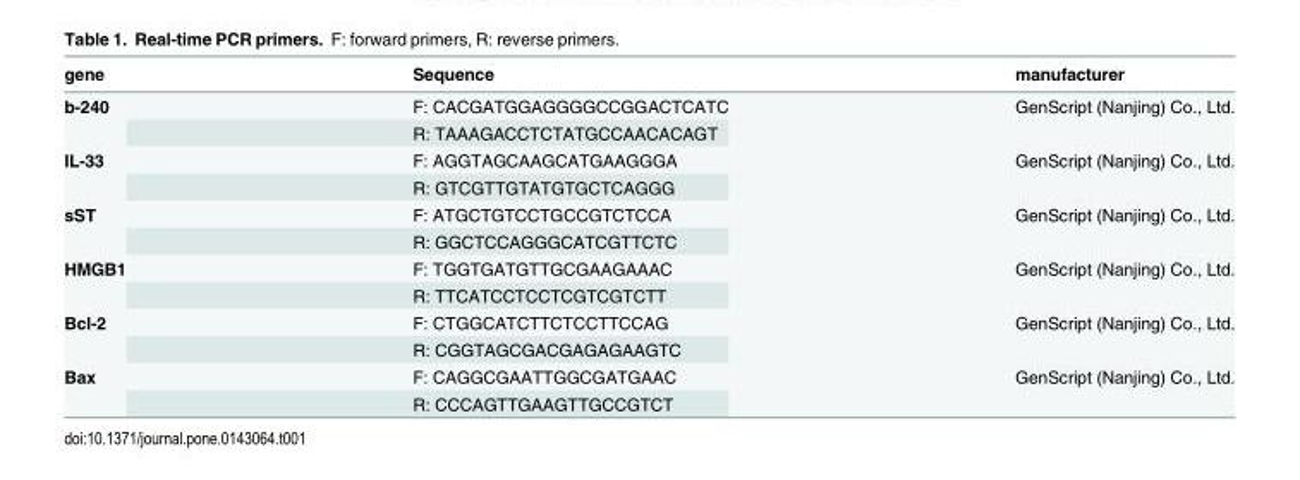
<table><thead><tr><td>gene</td><td>Sequence</td><td>manufacturer</td></tr></thead><tbody><tr><td rowspan="2">b-240</td><td>F: CACGATGGAGGGGCCGGACTCATC</td><td rowspan="2">GenScript (Nanjing) Co., Ltd.</td></tr><tr><td>R: TAAAGACCTCTATGCCAACACAGT</td></tr><tr><td rowspan="2">IL-33</td><td>F: AGGTAGCAAGCATGAAGGGA</td><td rowspan="2">GenScript (Nanjing) Co., Ltd.</td></tr><tr><td>R: GTCGTTGTATGTGCTCAGGG</td></tr><tr><td rowspan="2">sST</td><td>F: ATGCTGTCCTGCCGTCTCCA</td><td rowspan="2">GenScript (Nanjing) Co., Ltd.</td></tr><tr><td>R: GGCTCCAGGGCATCGTTCTC</td></tr><tr><td rowspan="2">HMGB1</td><td>F: TGGTGATGTTGCGAAGAAAC</td><td rowspan="2">GenScript (Nanjing) Co., Ltd.</td></tr><tr><td>R: TTCATCCTCCTCGTCGTCTT</td></tr><tr><td rowspan="2">Bcl-2</td><td>F: CTGGCATCTTCTCCTTCCAG</td><td rowspan="2">GenScript (Nanjing) Co., Ltd.</td></tr><tr><td>R: CGGTAGCGACGAGAGAAGTC</td></tr><tr><td rowspan="2">Bax</td><td>F: CAGGCGAATTGGCGATGAAC</td><td rowspan="2">GenScript (Nanjing) Co., Ltd.</td></tr><tr><td>R: CCCAGTTGAAGTTGCCGTCT</td></tr></tbody></table>